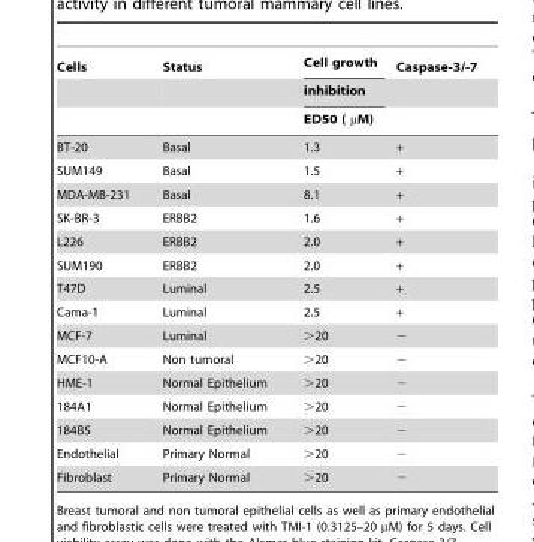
<table><thead><tr><td rowspan="3">Cells</td><td rowspan="3">Status</td><td rowspan="3">Cell growth inhibition ED50 ( µM)</td><td rowspan="3">Caspase-3/-7</td></tr><tr></tr><tr></tr></thead><tbody><tr><td>BT-20</td><td>Basal</td><td>1.3</td><td>+</td></tr><tr><td>SUM149</td><td>Basal</td><td>1.5</td><td>+</td></tr><tr><td>MDA-MB-231</td><td>Basal</td><td>8.1</td><td>+</td></tr><tr><td>SK-BR-3</td><td>ERBB2</td><td>1.6</td><td>+</td></tr><tr><td>L226</td><td>ERBB2</td><td>2.0</td><td>+</td></tr><tr><td>SUM190</td><td>ERBB2</td><td>2.0</td><td>+</td></tr><tr><td>T47D</td><td>Luminal</td><td>2.5</td><td>+</td></tr><tr><td>Cama-1</td><td>Luminal</td><td>2.5</td><td>+</td></tr><tr><td>MCF-7</td><td>Luminal</td><td>&gt;20</td><td>−</td></tr><tr><td>MCF10-A</td><td>Non tumoral</td><td>&gt;20</td><td>−</td></tr><tr><td>HME-1</td><td>Normal Epithelium</td><td>&gt;20</td><td>−</td></tr><tr><td>184A1</td><td>Normal Epithelium</td><td>&gt;20</td><td>−</td></tr><tr><td>184B5</td><td>Normal Epithelium</td><td>&gt;20</td><td>−</td></tr><tr><td>Endothelial</td><td>Primary Normal</td><td>&gt;20</td><td>−</td></tr><tr><td>Fibroblast</td><td>Primary Normal</td><td>&gt;20</td><td>−</td></tr></tbody></table>